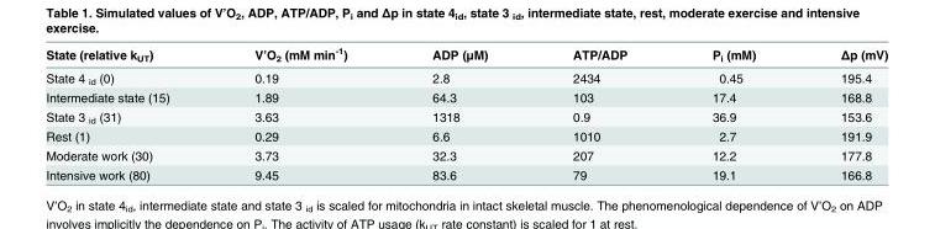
<table><thead><tr><td>State (relative k<sub>UT</sub>)</td><td>V’O<sub>2</sub> (mM min<sup>-1</sup>)</td><td>ADP (μM)</td><td>ATP/ADP</td><td>P<sub>i</sub> (mM)</td><td>Δp (mV)</td></tr></thead><tbody><tr><td>State 4 <sub>id</sub> (0)</td><td>0.19</td><td>2.8</td><td>2434</td><td>0.45</td><td>195.4</td></tr><tr><td>Intermediate state (15)</td><td>1.89</td><td>64.3</td><td>103</td><td>17.4</td><td>168.8</td></tr><tr><td>State 3 <sub>id</sub> (31)</td><td>3.63</td><td>1318</td><td>0.9</td><td>36.9</td><td>153.6</td></tr><tr><td>Rest (1)</td><td>0.29</td><td>6.6</td><td>1010</td><td>2.7</td><td>191.9</td></tr><tr><td>Moderate work (30)</td><td>3.73</td><td>32.3</td><td>207</td><td>12.2</td><td>177.8</td></tr><tr><td>Intensive work (80)</td><td>9.45</td><td>83.6</td><td>79</td><td>19.1</td><td>166.8</td></tr></tbody></table>